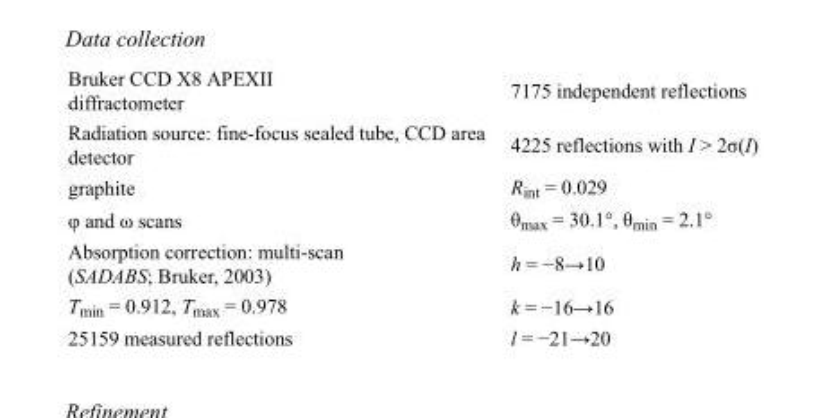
<table><tbody><tr><td>Bruker CCD X8 APEXII diffractometer</td><td>7175 independent reflections</td></tr><tr><td>Radiation source: fine-focus sealed tube, CCD area detector</td><td>4225 reflections with I &gt; 2σ(I)</td></tr><tr><td>graphite</td><td>R<sub>int</sub> = 0.029</td></tr><tr><td>φ and ω scans</td><td>θ<sub>max</sub> = 30.1°, θ<sub>min</sub> = 2.1°</td></tr><tr><td>Absorption correction: multi-scan (SADABS; Bruker, 2003)</td><td>h = −8→10</td></tr><tr><td>T<sub>min</sub> = 0.912, T<sub>max</sub> = 0.978</td><td>k = −16→16</td></tr><tr><td>25159 measured reflections</td><td>l = −21→20</td></tr></tbody></table>